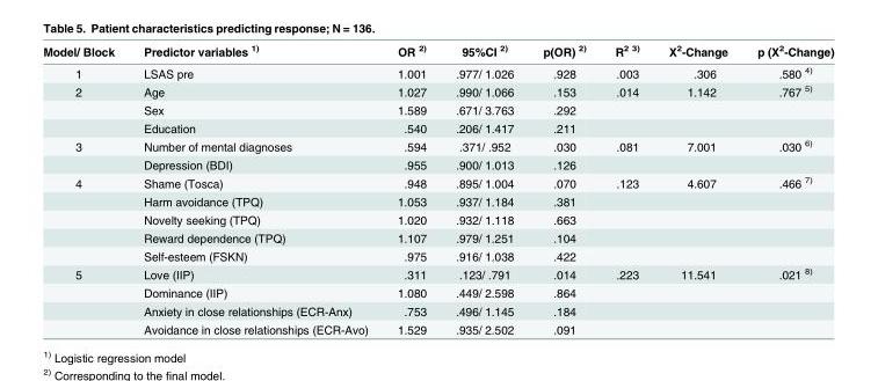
<table><thead><tr><td>Model/ Block</td><td>Predictor variables <sup>1)</sup></td><td>OR <sup>2)</sup></td><td>95%CI <sup>2)</sup></td><td>p(OR) <sup>2)</sup></td><td>R<sup>2 3)</sup></td><td>X<sup>2</sup>-Change</td><td>p (X<sup>2</sup>-Change)</td></tr></thead><tbody><tr><td>1</td><td>LSAS pre</td><td>1.001</td><td>.977/ 1.026</td><td>.928</td><td>.003</td><td>.306</td><td>.580 <sup>4)</sup></td></tr><tr><td rowspan="3">2</td><td>Age</td><td>1.027</td><td>.990/ 1.066</td><td>.153</td><td>.014</td><td>1.142</td><td>.767 <sup>5)</sup></td></tr><tr><td>Sex</td><td>1.589</td><td>.671/ 3.763</td><td>.292</td><td></td><td></td><td></td></tr><tr><td>Education</td><td>.540</td><td>.206/ 1.417</td><td>.211</td><td></td><td></td><td></td></tr><tr><td rowspan="2">3</td><td>Number of mental diagnoses</td><td>.594</td><td>.371/ .952</td><td>.030</td><td>.081</td><td>7.001</td><td>.030 <sup>6)</sup></td></tr><tr><td>Depression (BDI)</td><td>.955</td><td>.900/ 1.013</td><td>.126</td><td></td><td></td><td></td></tr><tr><td rowspan="5">4</td><td>Shame (Tosca)</td><td>.948</td><td>.895/ 1.004</td><td>.070</td><td>.123</td><td>4.607</td><td>.466 <sup>7)</sup></td></tr><tr><td>Harm avoidance (TPQ)</td><td>1.053</td><td>.937/ 1.184</td><td>.381</td><td></td><td></td><td></td></tr><tr><td>Novelty seeking (TPQ)</td><td>1.020</td><td>.932/ 1.118</td><td>.663</td><td></td><td></td><td></td></tr><tr><td>Reward dependence (TPQ)</td><td>1.107</td><td>.979/ 1.251</td><td>.104</td><td></td><td></td><td></td></tr><tr><td>Self-esteem (FSKN)</td><td>.975</td><td>.916/ 1.038</td><td>.422</td><td></td><td></td><td></td></tr><tr><td rowspan="4">5</td><td>Love (IIP)</td><td>.311</td><td>.123/ .791</td><td>.014</td><td>.223</td><td>11.541</td><td>.021 <sup>8)</sup></td></tr><tr><td>Dominance (IIP)</td><td>1.080</td><td>.449/ 2.598</td><td>.864</td><td></td><td></td><td></td></tr><tr><td>Anxiety in close relationships (ECR-Anx)</td><td>.753</td><td>.496/ 1.145</td><td>.184</td><td></td><td></td><td></td></tr><tr><td>Avoidance in close relationships (ECR-Avo)</td><td>1.529</td><td>.935/ 2.502</td><td>.091</td><td></td><td></td><td></td></tr></tbody></table>